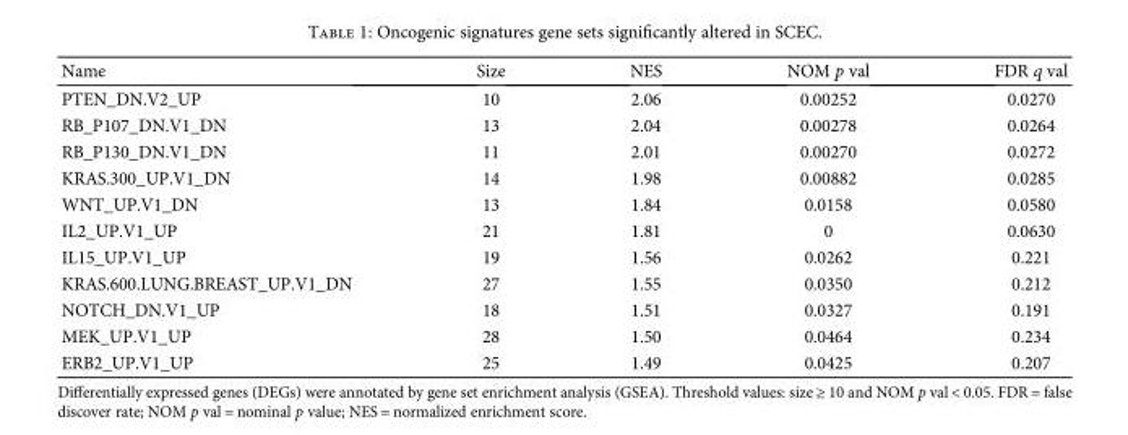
<table><thead><tr><td>Name</td><td>Size</td><td>NES</td><td>NOM p val</td><td>FDR q val</td></tr></thead><tbody><tr><td>PTEN_DN.V2_UP</td><td>10</td><td>2.06</td><td>0.00252</td><td>0.0270</td></tr><tr><td>RB_P107_DN.V1_DN</td><td>13</td><td>2.04</td><td>0.00278</td><td>0.0264</td></tr><tr><td>RB_P130_DN.V1_DN</td><td>11</td><td>2.01</td><td>0.00270</td><td>0.0272</td></tr><tr><td>KRAS.300_UP.V1_DN</td><td>14</td><td>1.98</td><td>0.00882</td><td>0.0285</td></tr><tr><td>WNT_UP.V1_DN</td><td>13</td><td>1.84</td><td>0.0158</td><td>0.0580</td></tr><tr><td>IL2_UP.V1_UP</td><td>21</td><td>1.81</td><td>0</td><td>0.0630</td></tr><tr><td>IL15_UP.V1_UP</td><td>19</td><td>1.56</td><td>0.0262</td><td>0.221</td></tr><tr><td>KRAS.600.LUNG.BREAST_UP.V1_DN</td><td>27</td><td>1.55</td><td>0.0350</td><td>0.212</td></tr><tr><td>NOTCH_DN.V1_UP</td><td>18</td><td>1.51</td><td>0.0327</td><td>0.191</td></tr><tr><td>MEK_UP.V1_UP</td><td>28</td><td>1.50</td><td>0.0464</td><td>0.234</td></tr><tr><td>ERB2_UP.V1_UP</td><td>25</td><td>1.49</td><td>0.0425</td><td>0.207</td></tr></tbody></table>